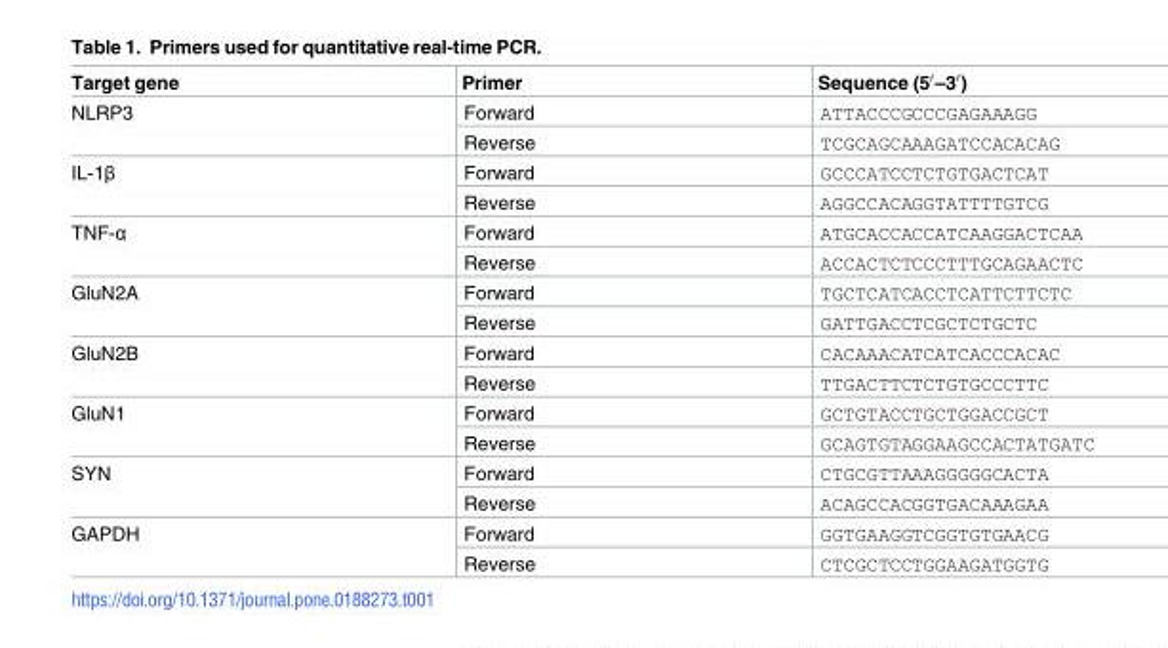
<table><thead><tr><td>Target gene</td><td>Primer</td><td>Sequence (5′–3′)</td></tr></thead><tbody><tr><td rowspan="2">NLRP3</td><td>Forward</td><td>ATTACCCGCCCGAGAAAGG</td></tr><tr><td>Reverse</td><td>TCGCAGCAAAGATCCACACAG</td></tr><tr><td rowspan="2">IL-1β</td><td>Forward</td><td>GCCCATCCTCTGTGACTCAT</td></tr><tr><td>Reverse</td><td>AGGCCACAGGTATTTTGTCG</td></tr><tr><td rowspan="2">TNF-α</td><td>Forward</td><td>ATGCACCACCATCAAGGACTCAA</td></tr><tr><td>Reverse</td><td>ACCACTCTCCCTTTGCAGAACTC</td></tr><tr><td rowspan="2">GluN2A</td><td>Forward</td><td>TGCTCATCACCTCATTCTTCTC</td></tr><tr><td>Reverse</td><td>GATTGACCTCGCTCTGCTC</td></tr><tr><td rowspan="2">GluN2B</td><td>Forward</td><td>CACAAACATCATCACCCACAC</td></tr><tr><td>Reverse</td><td>TTGACTTCTCTGTGCCCTTC</td></tr><tr><td rowspan="2">GluN1</td><td>Forward</td><td>GCTGTACCTGCTGGACCGCT</td></tr><tr><td>Reverse</td><td>GCAGTGTAGGAAGCCACTATGATC</td></tr><tr><td rowspan="2">SYN</td><td>Forward</td><td>CTGCGTTAAAGGGGGCACTA</td></tr><tr><td>Reverse</td><td>ACAGCCACGGTGACAAAGAA</td></tr><tr><td rowspan="2">GAPDH</td><td>Forward</td><td>GGTGAAGGTCGGTGTGAACG</td></tr><tr><td>Reverse</td><td>CTCGCTCCTGGAAGATGGTG</td></tr></tbody></table>